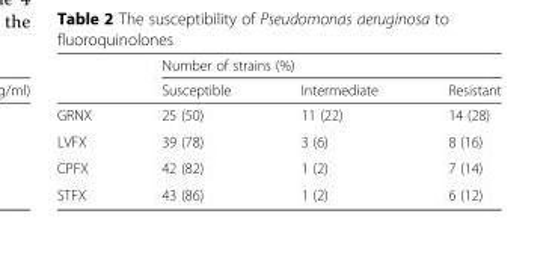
<table><thead><tr><td rowspan="2"></td><td colspan="3">Number of strains (%)</td></tr><tr><td>Susceptible</td><td>Intermediate</td><td>Resistant</td></tr></thead><tbody><tr><td>GRNX</td><td>25 (50)</td><td>11 (22)</td><td>14 (28)</td></tr><tr><td>LVFX</td><td>39 (78)</td><td>3 (6)</td><td>8 (16)</td></tr><tr><td>CPFX</td><td>42 (82)</td><td>1 (2)</td><td>7 (14)</td></tr><tr><td>STFX</td><td>43 (86)</td><td>1 (2)</td><td>6 (12)</td></tr></tbody></table>